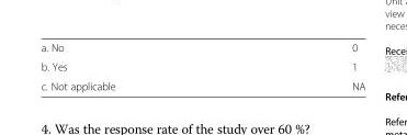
<table><tbody><tr><td>a. No</td><td>0</td></tr><tr><td>b. Yes</td><td>1</td></tr><tr><td>c. Not applicable</td><td>NA</td></tr></tbody></table>